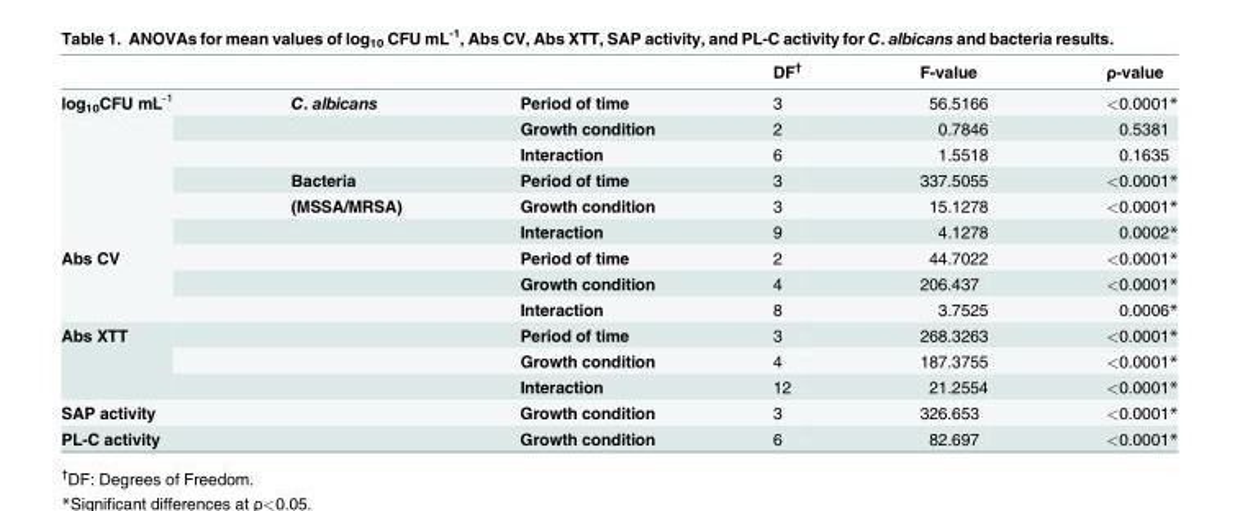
<table><thead><tr><td></td><td></td><td></td><td>DF<sup>†</sup></td><td>F-value</td><td>ρ-value</td></tr></thead><tbody><tr><td rowspan="6">log<sub>10</sub>CFU mL<sup>-1</sup></td><td>C. albicans</td><td>Period of time</td><td>3</td><td>56.5166</td><td>&lt;0.0001*</td></tr><tr><td></td><td>Growth condition</td><td>2</td><td>0.7846</td><td>0.5381</td></tr><tr><td></td><td>Interaction</td><td>6</td><td>1.5518</td><td>0.1635</td></tr><tr><td>Bacteria</td><td>Period of time</td><td>3</td><td>337.5055</td><td>&lt;0.0001*</td></tr><tr><td>(MSSA/MRSA)</td><td>Growth condition</td><td>3</td><td>15.1278</td><td>&lt;0.0001*</td></tr><tr><td></td><td>Interaction</td><td>9</td><td>4.1278</td><td>0.0002*</td></tr><tr><td rowspan="3">Abs CV</td><td></td><td>Period of time</td><td>2</td><td>44.7022</td><td>&lt;0.0001*</td></tr><tr><td></td><td>Growth condition</td><td>4</td><td>206.437</td><td>&lt;0.0001*</td></tr><tr><td></td><td>Interaction</td><td>8</td><td>3.7525</td><td>0.0006*</td></tr><tr><td rowspan="3">Abs XTT</td><td></td><td>Period of time</td><td>3</td><td>268.3263</td><td>&lt;0.0001*</td></tr><tr><td></td><td>Growth condition</td><td>4</td><td>187.3755</td><td>&lt;0.0001*</td></tr><tr><td></td><td>Interaction</td><td>12</td><td>21.2554</td><td>&lt;0.0001*</td></tr><tr><td>SAP activity</td><td></td><td>Growth condition</td><td>3</td><td>326.653</td><td>&lt;0.0001*</td></tr><tr><td>PL-C activity</td><td></td><td>Growth condition</td><td>6</td><td>82.697</td><td>&lt;0.0001*</td></tr></tbody></table>